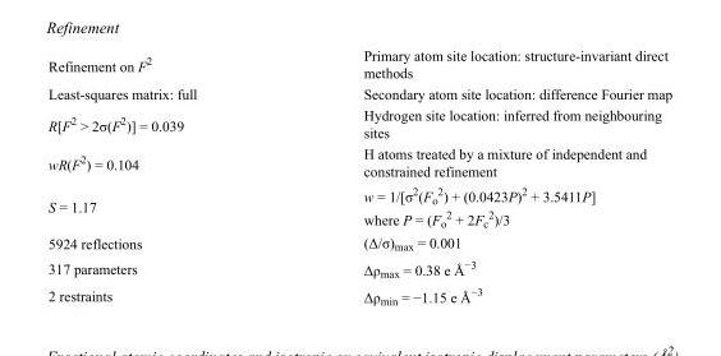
<table><tbody><tr><td>Refinement on F<sup>2</sup></td><td>Primary atom site location: structure-invariant direct methods</td></tr><tr><td>Least-squares matrix: full</td><td>Secondary atom site location: difference Fourier map</td></tr><tr><td>R[F<sup>2</sup> &gt; 2σ(F<sup>2</sup>)] = 0.039</td><td>Hydrogen site location: inferred from neighbouring sites</td></tr><tr><td>wR(F<sup>2</sup>) = 0.104</td><td>H atoms treated by a mixture of independent and constrained refinement</td></tr><tr><td>S = 1.17</td><td>w = 1/[σ<sup>2</sup>(F<sub>o</sub> <sup>2</sup>) + (0.0423P)<sup>2</sup> + 3.5411P] where P = (F<sub>o</sub> <sup>2</sup> + 2F<sub>c</sub> <sup>2</sup>)/3</td></tr><tr><td>5924 reflections</td><td>(Δ/σ)<sub>max</sub> = 0.001</td></tr><tr><td>317 parameters</td><td>Δρ<sub>max</sub> = 0.38 e Å<sup>−3</sup></td></tr><tr><td>2 restraints</td><td>Δρ<sub>min</sub> = −1.15 e Å<sup>−3</sup></td></tr></tbody></table>